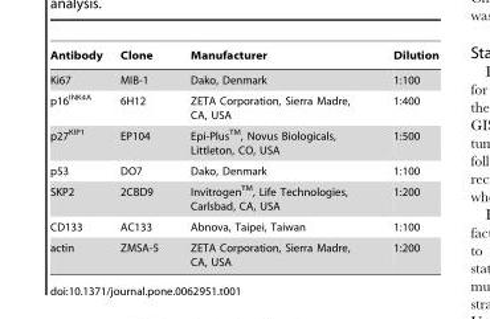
<table><thead><tr><td>Antibody</td><td>Clone</td><td>Manufacturer</td><td>Dilution</td></tr></thead><tbody><tr><td>Ki67</td><td>MIB-1</td><td>Dako, Denmark</td><td>1:100</td></tr><tr><td>p16<sup>INK4A</sup></td><td>6H12</td><td>ZETA Corporation, Sierra Madre, CA, USA</td><td>1:400</td></tr><tr><td>p27<sup>KIP1</sup></td><td>EP104</td><td>Epi-PlusTM, Novus Biologicals, Littleton, CO, USA</td><td>1:500</td></tr><tr><td>p53</td><td>DO7</td><td>Dako, Denmark</td><td>1:100</td></tr><tr><td>SKP2</td><td>2CBD9</td><td>InvitrogenTM, Life Technologies, Carlsbad, CA, USA</td><td>1:200</td></tr><tr><td>CD133</td><td>AC133</td><td>Abnova, Taipei, Taiwan</td><td>1:100</td></tr><tr><td>actin</td><td>ZMSA-5</td><td>ZETA Corporation, Sierra Madre, CA, USA</td><td>1:200</td></tr></tbody></table>